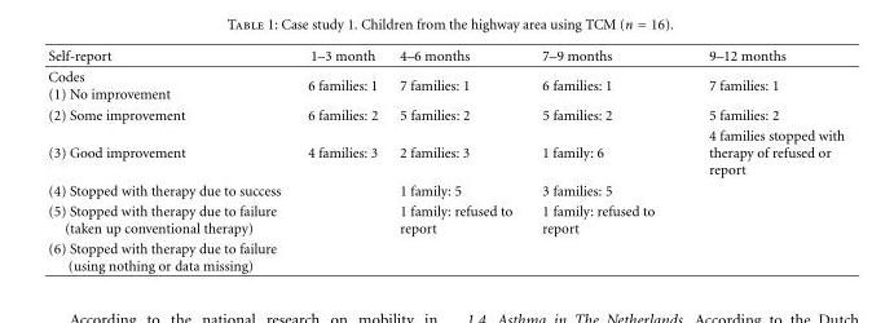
<table><thead><tr><td>Self-report</td><td>1–3 month</td><td>4–6 months</td><td>7–9 months</td><td>9–12 months</td></tr></thead><tbody><tr><td>Codes (1) No improvement</td><td>6 families: 1</td><td>7 families: 1</td><td>6 families: 1</td><td>7 families: 1</td></tr><tr><td>(2) Some improvement</td><td>6 families: 2</td><td>5 families: 2</td><td>5 families: 2</td><td>5 families: 2</td></tr><tr><td>(3) Good improvement</td><td>4 families: 3</td><td>2 families: 3</td><td>1 family: 6</td><td>4 families stopped with therapy of refused or report</td></tr><tr><td>(4) Stopped with therapy due to success</td><td></td><td>1 family: 5</td><td>3 families: 5</td><td></td></tr><tr><td>(5) Stopped with therapy due to failure (taken up conventional therapy)</td><td></td><td>1 family: refused to report</td><td>1 family: refused to report</td><td></td></tr><tr><td>(6) Stopped with therapy due to failure (using nothing or data missing)</td><td></td><td></td><td></td><td></td></tr></tbody></table>